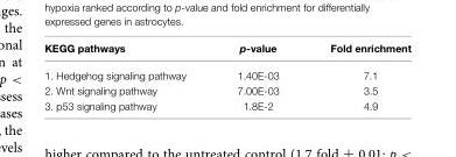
<table><thead><tr><td>KEGG pathways</td><td>p-value</td><td>Fold enrichment</td></tr></thead><tbody><tr><td>1. Hedgehog signaling pathway</td><td>1.40E-03</td><td>7.1</td></tr><tr><td>2. Wnt signaling pathway</td><td>7.00E-03</td><td>3.5</td></tr><tr><td>3. p53 signaling pathway</td><td>1.8E-2</td><td>4.9</td></tr></tbody></table>